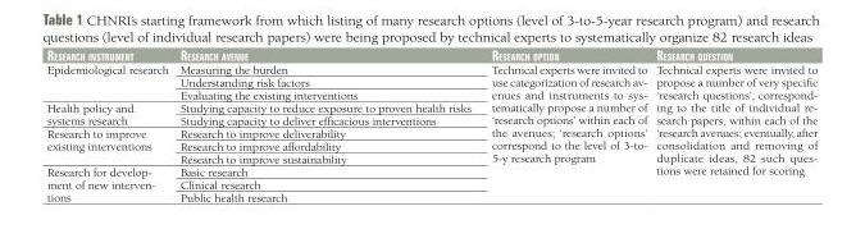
<table><thead><tr><td>ReseaRch instRument</td><td>ReseaRch avenue</td><td>ReseaRch option</td><td>ReseaRch question</td></tr></thead><tbody><tr><td rowspan="3">Epidemiological research</td><td>Measuring the burden</td><td rowspan="11">Technical experts were invited to use categorization of research av- enues and instruments to sys- tematically propose a number of ‘research options’ within each of the avenues; ‘research options’ correspond to the level of 3-to- 5-y research program</td><td rowspan="11">Technical experts were invited to propose a number of very specific ‘research questions’, correspond- ing to the title of individual re- search papers, within each of the ‘research avenues; eventually, after consolidation and removing of duplicate ideas, 82 such ques- tions were retained for scoring</td></tr><tr><td>Understanding risk factors</td></tr><tr><td>Evaluating the existing interventions</td></tr><tr><td rowspan="2">Health policy and systems research</td><td>Studying capacity to reduce exposure to proven health risks</td></tr><tr><td>Studying capacity to deliver efficacious interventions</td></tr><tr><td rowspan="3">Research to improve existing interventions</td><td>Research to improve deliverability</td></tr><tr><td>Research to improve affordability</td></tr><tr><td>Research to improve sustainability</td></tr><tr><td rowspan="3">Research for develop- ment of new interven- tions</td><td>Basic research</td></tr><tr><td>Clinical research</td></tr><tr><td>Public health research</td></tr></tbody></table>